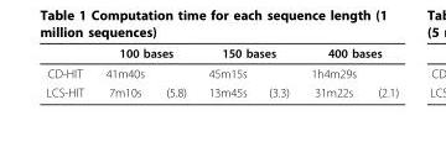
<table><thead><tr><td rowspan="2">CD-HIT</td><td colspan="2">100 bases</td><td colspan="2">150 bases</td><td colspan="2">400 bases</td></tr><tr><td>41m40s</td><td></td><td>45m15s</td><td></td><td>1h4m29s</td><td></td></tr></thead><tbody><tr><td>LCS-HIT</td><td>7m10s</td><td>(5.8)</td><td>13m45s</td><td>(3.3)</td><td>31m22s</td><td>(2.1)</td></tr></tbody></table>